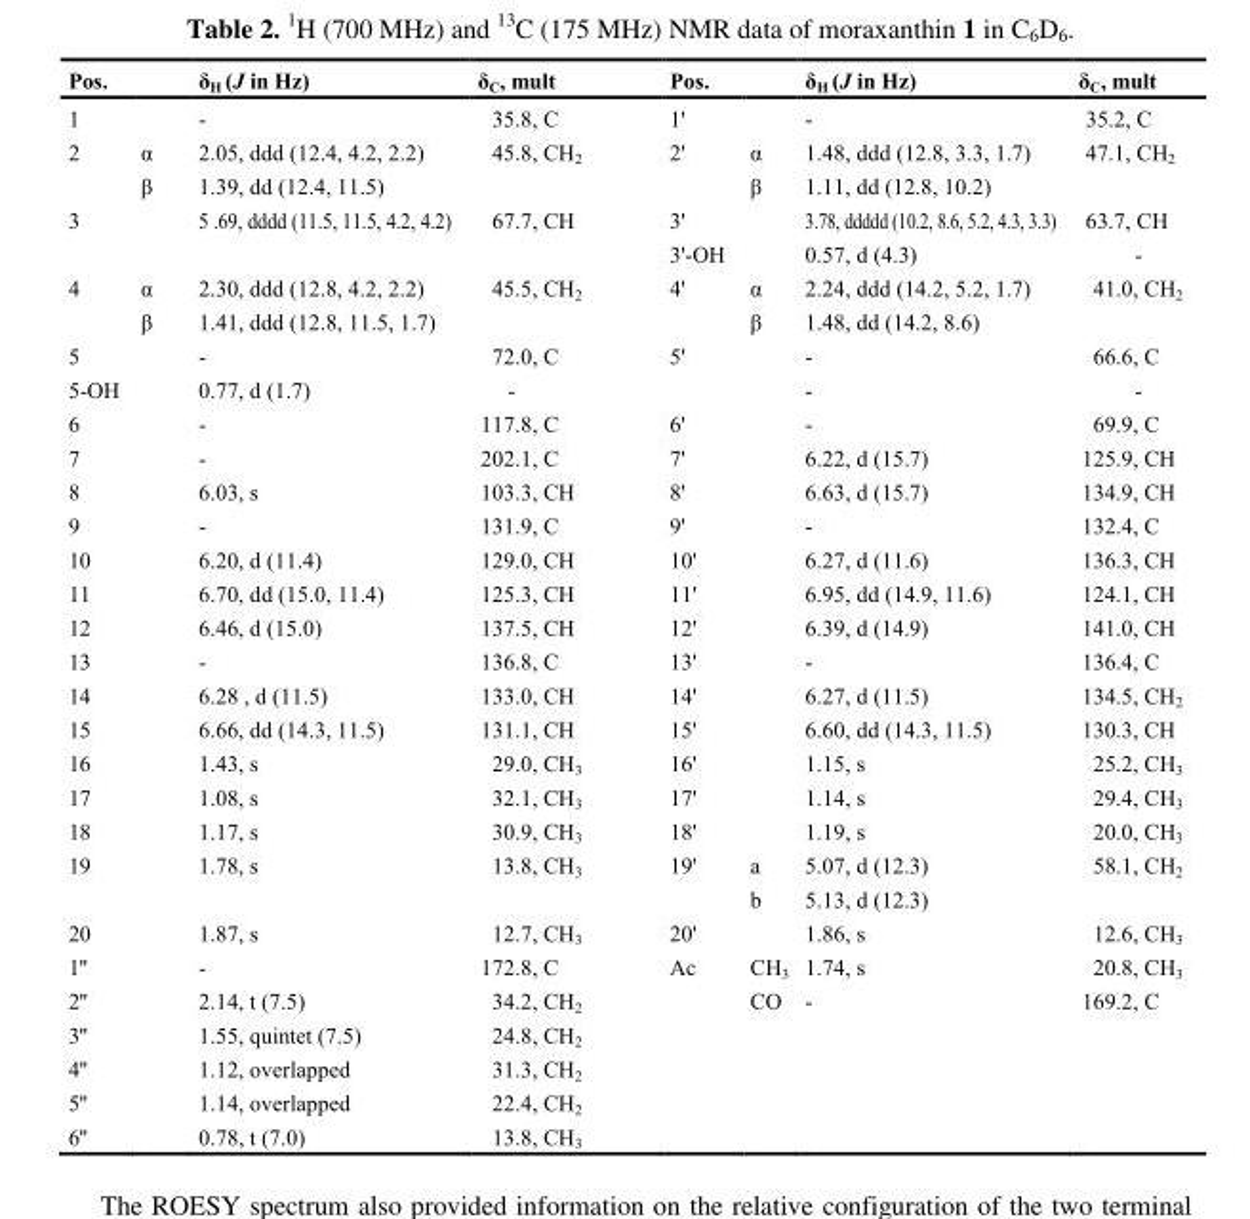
<table><thead><tr><td colspan="2">Pos.</td><td rowspan="2">δ<sub>H</sub> (J in Hz) -</td><td rowspan="2">δ<sub>C</sub>, mult 35.8, C</td><td colspan="2">Pos.</td><td rowspan="2">δ<sub>H</sub> (J in Hz) -</td><td rowspan="2">δ<sub>C</sub>, mult 35.2, C</td></tr><tr><td>1</td><td></td><td>1&#x27;</td><td></td></tr></thead><tbody><tr><td rowspan="2">2</td><td>α</td><td>2.05, ddd (12.4, 4.2, 2.2)</td><td>45.8, CH<sub>2</sub></td><td>2&#x27;</td><td>α</td><td>1.48, ddd (12.8, 3.3, 1.7)</td><td>47.1, CH<sub>2</sub></td></tr><tr><td>β</td><td>1.39, dd (12.4, 11.5)</td><td></td><td></td><td>β</td><td>1.11, dd (12.8, 10.2)</td><td></td></tr><tr><td rowspan="2">3</td><td></td><td>5 .69, dddd (11.5, 11.5, 4.2, 4.2)</td><td>67.7, CH</td><td>3&#x27;</td><td></td><td>3.78, ddddd (10.2, 8.6, 5.2, 4.3, 3.3)</td><td>63.7, CH</td></tr><tr><td></td><td></td><td></td><td>3&#x27;-OH</td><td></td><td>0.57, d (4.3)</td><td>-</td></tr><tr><td rowspan="2">4</td><td>α</td><td>2.30, ddd (12.8, 4.2, 2.2)</td><td>45.5, CH<sub>2</sub></td><td>4&#x27;</td><td>α</td><td>2.24, ddd (14.2, 5.2, 1.7)</td><td>41.0, CH<sub>2</sub></td></tr><tr><td>β</td><td>1.41, ddd (12.8, 11.5, 1.7)</td><td></td><td></td><td>β</td><td>1.48, dd (14.2, 8.6)</td><td></td></tr><tr><td>5</td><td></td><td>-</td><td>72.0, C</td><td>5&#x27;</td><td></td><td>-</td><td>66.6, C</td></tr><tr><td>5-OH</td><td></td><td>0.77, d (1.7)</td><td>-</td><td></td><td></td><td>-</td><td>-</td></tr><tr><td>6</td><td></td><td>-</td><td>117.8, C</td><td>6&#x27;</td><td></td><td>-</td><td>69.9, C</td></tr><tr><td>7</td><td></td><td>-</td><td>202.1, C</td><td>7&#x27;</td><td></td><td>6.22, d (15.7)</td><td>125.9, CH</td></tr><tr><td>8</td><td></td><td>6.03, s</td><td>103.3, CH</td><td>8&#x27;</td><td></td><td>6.63, d (15.7)</td><td>134.9, CH</td></tr><tr><td>9</td><td></td><td>-</td><td>131.9, C</td><td>9&#x27;</td><td></td><td>-</td><td>132.4, C</td></tr><tr><td>10</td><td></td><td>6.20, d (11.4)</td><td>129.0, CH</td><td>10&#x27;</td><td></td><td>6.27, d (11.6)</td><td>136.3, CH</td></tr><tr><td>11</td><td></td><td>6.70, dd (15.0, 11.4)</td><td>125.3, CH</td><td>11&#x27;</td><td></td><td>6.95, dd (14.9, 11.6)</td><td>124.1, CH</td></tr><tr><td>12</td><td></td><td>6.46, d (15.0)</td><td>137.5, CH</td><td>12&#x27;</td><td></td><td>6.39, d (14.9)</td><td>141.0, CH</td></tr><tr><td>13</td><td></td><td>-</td><td>136.8, C</td><td>13&#x27;</td><td></td><td>-</td><td>136.4, C</td></tr><tr><td>14</td><td></td><td>6.28 , d (11.5)</td><td>133.0, CH</td><td>14&#x27;</td><td></td><td>6.27, d (11.5)</td><td>134.5, CH<sub>2</sub></td></tr><tr><td>15</td><td></td><td>6.66, dd (14.3, 11.5)</td><td>131.1, CH</td><td>15&#x27;</td><td></td><td>6.60, dd (14.3, 11.5)</td><td>130.3, CH</td></tr><tr><td>16</td><td></td><td>1.43, s</td><td>29.0, CH<sub>3</sub></td><td>16&#x27;</td><td></td><td>1.15, s</td><td>25.2, CH<sub>3</sub></td></tr><tr><td>17</td><td></td><td>1.08, s</td><td>32.1, CH<sub>3</sub></td><td>17&#x27;</td><td></td><td>1.14, s</td><td>29.4, CH<sub>3</sub></td></tr><tr><td>18</td><td></td><td>1.17, s</td><td>30.9, CH<sub>3</sub></td><td>18&#x27;</td><td></td><td>1.19, s</td><td>20.0, CH<sub>3</sub></td></tr><tr><td rowspan="2">19</td><td></td><td>1.78, s</td><td>13.8, CH<sub>3</sub></td><td>19&#x27;</td><td>a</td><td>5.07, d (12.3)</td><td>58.1, CH<sub>2</sub></td></tr><tr><td></td><td></td><td></td><td></td><td>b</td><td>5.13, d (12.3)</td><td></td></tr><tr><td>20</td><td></td><td>1.87, s</td><td>12.7, CH<sub>3</sub></td><td>20&#x27;</td><td></td><td>1.86, s</td><td>12.6, CH<sub>3</sub></td></tr><tr><td>1&#x27;&#x27;</td><td></td><td>-</td><td>172.8, C</td><td>Ac</td><td>CH<sub>3</sub></td><td>1.74, s</td><td>20.8, CH<sub>3</sub></td></tr><tr><td>2&#x27;&#x27;</td><td></td><td>2.14, t (7.5)</td><td>34.2, CH<sub>2</sub></td><td></td><td>CO</td><td>-</td><td>169.2, C</td></tr><tr><td>3&#x27;&#x27;</td><td></td><td>1.55, quintet (7.5)</td><td>24.8, CH<sub>2</sub></td><td></td><td></td><td></td><td></td></tr><tr><td>4&#x27;&#x27;</td><td></td><td>1.12, overlapped</td><td>31.3, CH<sub>2</sub></td><td></td><td></td><td></td><td></td></tr><tr><td>5&#x27;&#x27;</td><td></td><td>1.14, overlapped</td><td>22.4, CH<sub>2</sub></td><td></td><td></td><td></td><td></td></tr><tr><td>6&#x27;&#x27;</td><td></td><td>0.78, t (7.0)</td><td>13.8, CH<sub>3</sub></td><td></td><td></td><td></td><td></td></tr></tbody></table>